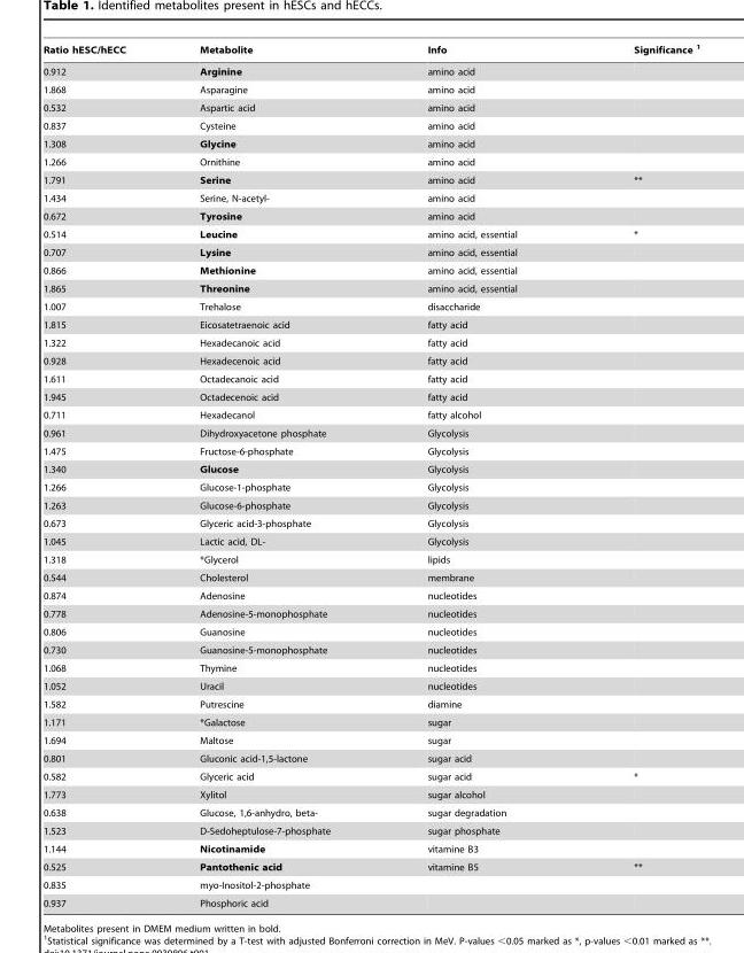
<table><thead><tr><td>Ratio hESC/hECC</td><td>Metabolite</td><td>Info</td><td>Significance 1</td></tr></thead><tbody><tr><td>0.912</td><td>Arginine</td><td>amino acid</td><td></td></tr><tr><td>1.868</td><td>Asparagine</td><td>amino acid</td><td></td></tr><tr><td>0.532</td><td>Aspartic acid</td><td>amino acid</td><td></td></tr><tr><td>0.837</td><td>Cysteine</td><td>amino acid</td><td></td></tr><tr><td>1.308</td><td>Glycine</td><td>amino acid</td><td></td></tr><tr><td>1.266</td><td>Ornithine</td><td>amino acid</td><td></td></tr><tr><td>1.791</td><td>Serine</td><td>amino acid</td><td>**</td></tr><tr><td>1.434</td><td>Serine, N-acetyl-</td><td>amino acid</td><td></td></tr><tr><td>0.672</td><td>Tyrosine</td><td>amino acid</td><td></td></tr><tr><td>0.514</td><td>Leucine</td><td>amino acid, essential</td><td>*</td></tr><tr><td>0.707</td><td>Lysine</td><td>amino acid, essential</td><td></td></tr><tr><td>0.866</td><td>Methionine</td><td>amino acid, essential</td><td></td></tr><tr><td>1.865</td><td>Threonine</td><td>amino acid, essential</td><td></td></tr><tr><td>1.007</td><td>Trehalose</td><td>disaccharide</td><td></td></tr><tr><td>1.815</td><td>Eicosatetraenoic acid</td><td>fatty acid</td><td></td></tr><tr><td>1.322</td><td>Hexadecanoic acid</td><td>fatty acid</td><td></td></tr><tr><td>0.928</td><td>Hexadecenoic acid</td><td>fatty acid</td><td></td></tr><tr><td>1.611</td><td>Octadecanoic acid</td><td>fatty acid</td><td></td></tr><tr><td>1.945</td><td>Octadecenoic acid</td><td>fatty acid</td><td></td></tr><tr><td>0.711</td><td>Hexadecanol</td><td>fatty alcohol</td><td></td></tr><tr><td>0.961</td><td>Dihydroxyacetone phosphate</td><td>Glycolysis</td><td></td></tr><tr><td>1.475</td><td>Fructose-6-phosphate</td><td>Glycolysis</td><td></td></tr><tr><td>1.340</td><td>Glucose</td><td>Glycolysis</td><td></td></tr><tr><td>1.266</td><td>Glucose-1-phosphate</td><td>Glycolysis</td><td></td></tr><tr><td>1.263</td><td>Glucose-6-phosphate</td><td>Glycolysis</td><td></td></tr><tr><td>0.673</td><td>Glyceric acid-3-phosphate</td><td>Glycolysis</td><td></td></tr><tr><td>1.045</td><td>Lactic acid, DL-</td><td>Glycolysis</td><td></td></tr><tr><td>1.318</td><td>*Glycerol</td><td>lipids</td><td></td></tr><tr><td>0.544</td><td>Cholesterol</td><td>membrane</td><td></td></tr><tr><td>0.874</td><td>Adenosine</td><td>nucleotides</td><td></td></tr><tr><td>0.778</td><td>Adenosine-5-monophosphate</td><td>nucleotides</td><td></td></tr><tr><td>0.806</td><td>Guanosine</td><td>nucleotides</td><td></td></tr><tr><td>0.730</td><td>Guanosine-5-monophosphate</td><td>nucleotides</td><td></td></tr><tr><td>1.068</td><td>Thymine</td><td>nucleotides</td><td></td></tr><tr><td>1.052</td><td>Uracil</td><td>nucleotides</td><td></td></tr><tr><td>1.582</td><td>Putrescine</td><td>diamine</td><td></td></tr><tr><td>1.171</td><td>*Galactose</td><td>sugar</td><td></td></tr><tr><td>1.694</td><td>Maltose</td><td>sugar</td><td></td></tr><tr><td>0.801</td><td>Gluconic acid-1,5-lactone</td><td>sugar acid</td><td></td></tr><tr><td>0.582</td><td>Glyceric acid</td><td>sugar acid</td><td>*</td></tr><tr><td>1.773</td><td>Xylitol</td><td>sugar alcohol</td><td></td></tr><tr><td>0.638</td><td>Glucose, 1,6-anhydro, beta-</td><td>sugar degradation</td><td></td></tr><tr><td>1.523</td><td>D-Sedoheptulose-7-phosphate</td><td>sugar phosphate</td><td></td></tr><tr><td>1.144</td><td>Nicotinamide</td><td>vitamine B3</td><td></td></tr><tr><td>0.525</td><td>Pantothenic acid</td><td>vitamine B5</td><td>**</td></tr><tr><td>0.835</td><td>myo-Inositol-2-phosphate</td><td></td><td></td></tr><tr><td>0.937</td><td>Phosphoric acid</td><td></td><td></td></tr></tbody></table>